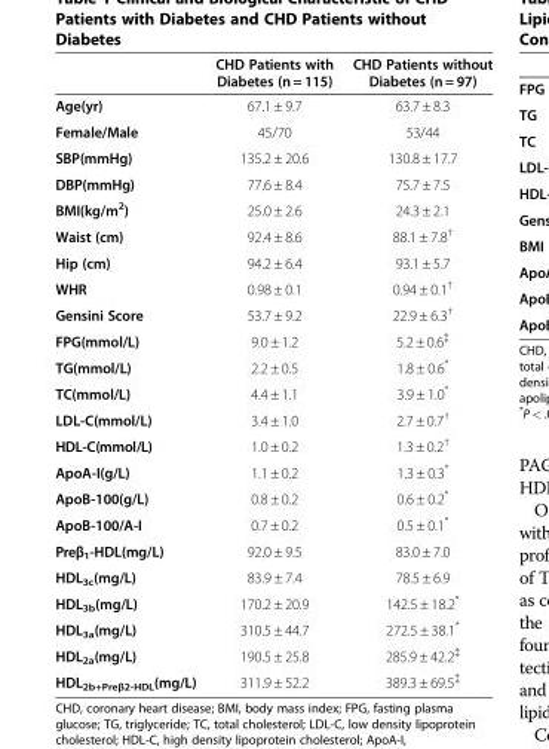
<table><thead><tr><td></td><td>CHD Patients with Diabetes (n = 115)</td><td>CHD Patients without Diabetes (n = 97)</td></tr></thead><tbody><tr><td>Age(yr)</td><td>67.1 ± 9.7</td><td>63.7 ± 8.3</td></tr><tr><td>Female/Male</td><td>45/70</td><td>53/44</td></tr><tr><td>SBP(mmHg)</td><td>135.2 ± 20.6</td><td>130.8 ± 17.7</td></tr><tr><td>DBP(mmHg)</td><td>77.6 ± 8.4</td><td>75.7 ± 7.5</td></tr><tr><td>BMI(kg/m<sup>2</sup>)</td><td>25.0 ± 2.6</td><td>24.3 ± 2.1</td></tr><tr><td>Waist (cm)</td><td>92.4 ± 8.6</td><td>88.1 ± 7.8<sup>†</sup></td></tr><tr><td>Hip (cm)</td><td>94.2 ± 6.4</td><td>93.1 ± 5.7</td></tr><tr><td>WHR</td><td>0.98 ± 0.1</td><td>0.94 ± 0.1<sup>†</sup></td></tr><tr><td>Gensini Score</td><td>53.7 ± 9.2</td><td>22.9 ± 6.3<sup>†</sup></td></tr><tr><td>FPG(mmol/L)</td><td>9.0 ± 1.2</td><td>5.2 ± 0.6<sup>‡</sup></td></tr><tr><td>TG(mmol/L)</td><td>2.2 ± 0.5</td><td>1.8 ± 0.6*</td></tr><tr><td>TC(mmol/L)</td><td>4.4 ± 1.1</td><td>3.9 ± 1.0*</td></tr><tr><td>LDL-C(mmol/L)</td><td>3.4 ± 1.0</td><td>2.7 ± 0.7<sup>†</sup></td></tr><tr><td>HDL-C(mmol/L)</td><td>1.0 ± 0.2</td><td>1.3 ± 0.2<sup>†</sup></td></tr><tr><td>ApoA-I(g/L)</td><td>1.1 ± 0.2</td><td>1.3 ± 0.3*</td></tr><tr><td>ApoB-100(g/L)</td><td>0.8 ± 0.2</td><td>0.6 ± 0.2*</td></tr><tr><td>ApoB-100/A-I</td><td>0.7 ± 0.2</td><td>0.5 ± 0.1*</td></tr><tr><td>Preβ<sub>1</sub>-HDL(mg/L)</td><td>92.0 ± 9.5</td><td>83.0 ± 7.0</td></tr><tr><td>HDL<sub>3c</sub>(mg/L)</td><td>83.9 ± 7.4</td><td>78.5 ± 6.9</td></tr><tr><td>HDL<sub>3b</sub>(mg/L)</td><td>170.2 ± 20.9</td><td>142.5 ± 18.2*</td></tr><tr><td>HDL<sub>3a</sub>(mg/L)</td><td>310.5 ± 44.7</td><td>272.5 ± 38.1*</td></tr><tr><td>HDL<sub>2a</sub>(mg/L)</td><td>190.5 ± 25.8</td><td>285.9 ± 42.2<sup>‡</sup></td></tr><tr><td>HDL<sub>2b+Preβ2-HDL</sub>(mg/L)</td><td>311.9 ± 52.2</td><td>389.3 ± 69.5<sup>‡</sup></td></tr></tbody></table>